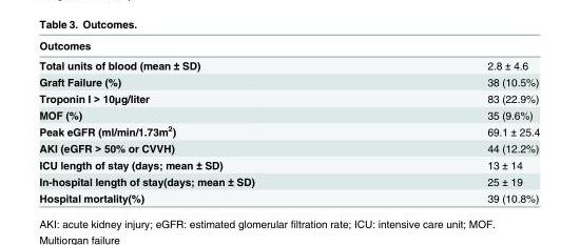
<table><thead><tr><td>Outcomes</td><td></td></tr></thead><tbody><tr><td>Total units of blood (mean ± SD)</td><td>2.8 ± 4.6</td></tr><tr><td>Graft Failure (%)</td><td>38 (10.5%)</td></tr><tr><td>Troponin I &gt; 10μg/liter</td><td>83 (22.9%)</td></tr><tr><td>MOF (%)</td><td>35 (9.6%)</td></tr><tr><td>Peak eGFR (ml/min/1.73m<sup>2</sup>)</td><td>69.1 ± 25.4</td></tr><tr><td>AKI (eGFR &gt; 50% or CVVH)</td><td>44 (12.2%)</td></tr><tr><td>ICU length of stay (days; mean ± SD)</td><td>13 ± 14</td></tr><tr><td>In-hospital length of stay(days; mean ± SD)</td><td>25 ± 19</td></tr><tr><td>Hospital mortality(%)</td><td>39 (10.8%)</td></tr></tbody></table>